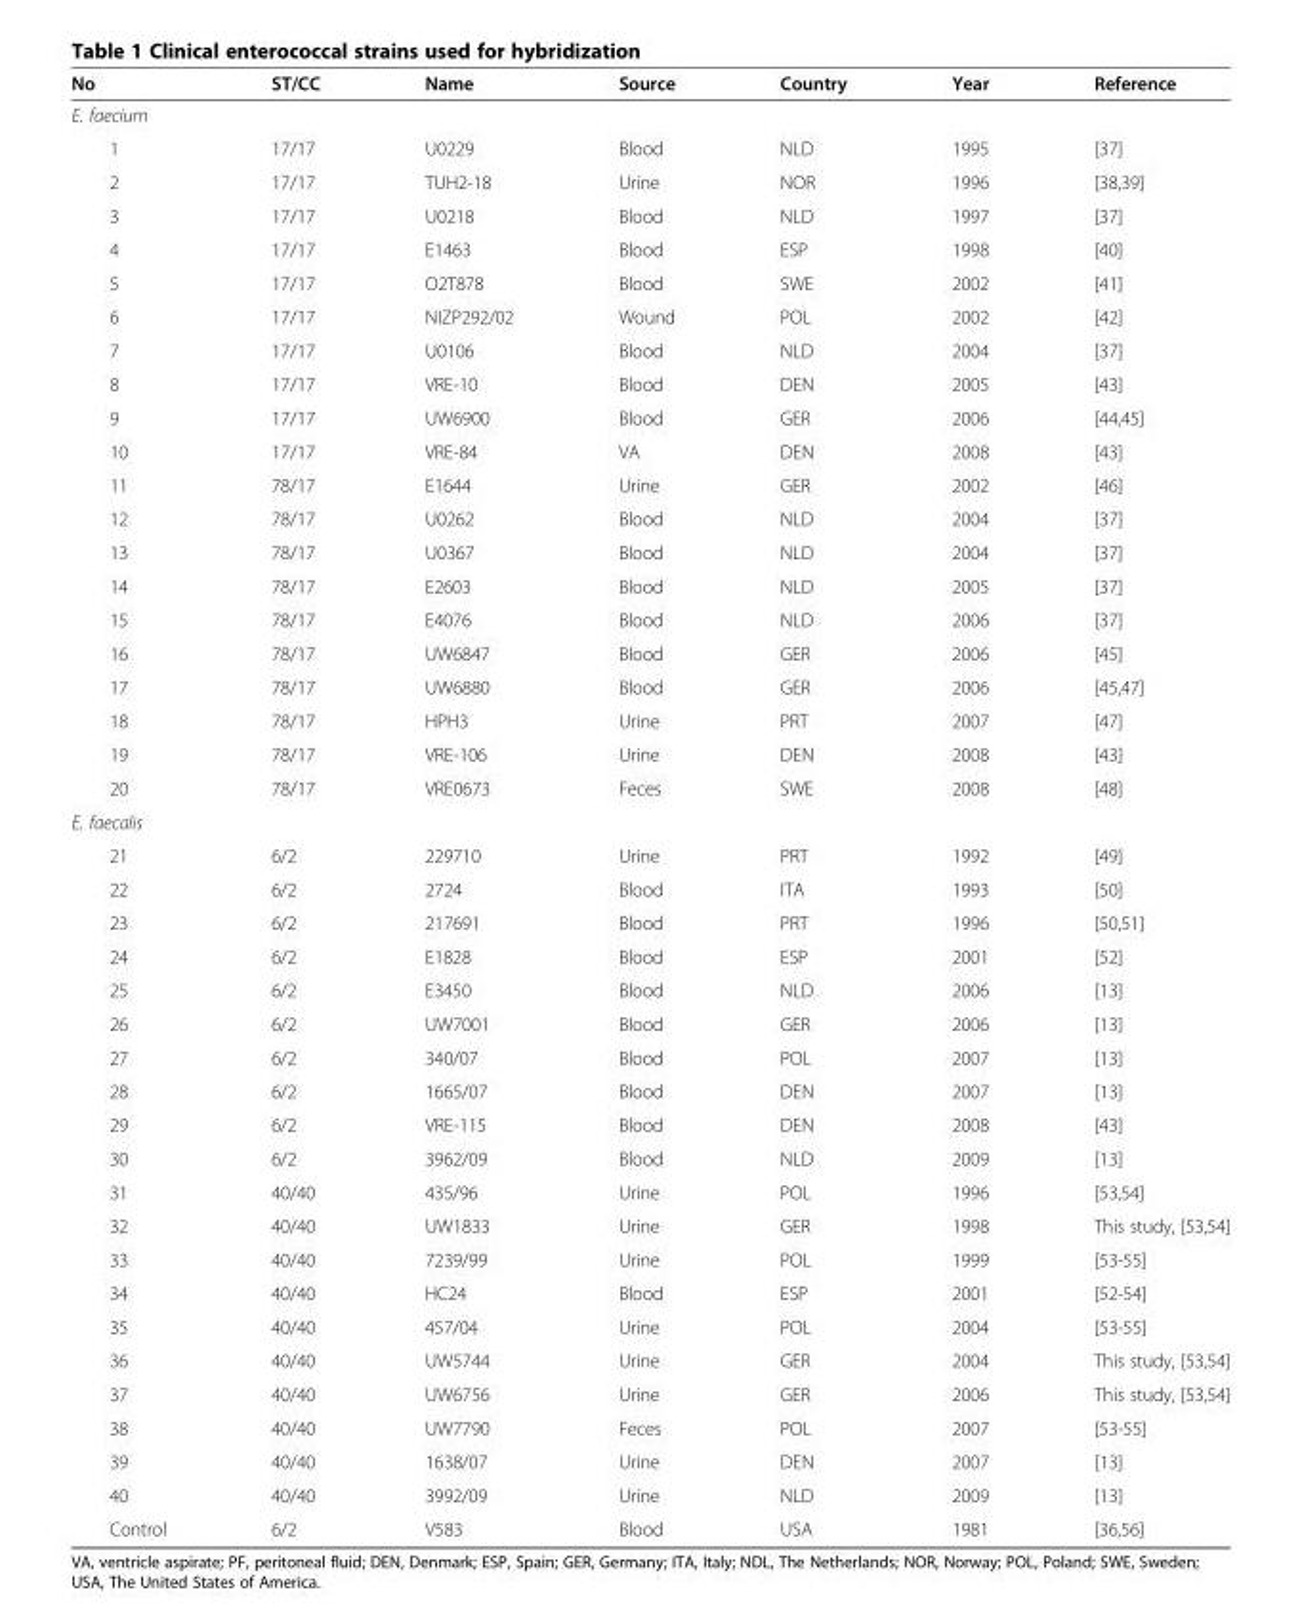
<table><thead><tr><td>No</td><td>ST/CC</td><td>Name</td><td>Source</td><td>Country</td><td>Year</td><td>Reference</td></tr></thead><tbody><tr><td colspan="7">E. faecium</td></tr><tr><td>1</td><td>17/17</td><td>U0229</td><td>Blood</td><td>NLD</td><td>1995</td><td>[37]</td></tr><tr><td>2</td><td>17/17</td><td>TUH2-18</td><td>Urine</td><td>NOR</td><td>1996</td><td>[38,39]</td></tr><tr><td>3</td><td>17/17</td><td>U0218</td><td>Blood</td><td>NLD</td><td>1997</td><td>[37]</td></tr><tr><td>4</td><td>17/17</td><td>E1463</td><td>Blood</td><td>ESP</td><td>1998</td><td>[40]</td></tr><tr><td>5</td><td>17/17</td><td>O2T878</td><td>Blood</td><td>SWE</td><td>2002</td><td>[41]</td></tr><tr><td>6</td><td>17/17</td><td>NIZP292/02</td><td>Wound</td><td>POL</td><td>2002</td><td>[42]</td></tr><tr><td>7</td><td>17/17</td><td>U0106</td><td>Blood</td><td>NLD</td><td>2004</td><td>[37]</td></tr><tr><td>8</td><td>17/17</td><td>VRE-10</td><td>Blood</td><td>DEN</td><td>2005</td><td>[43]</td></tr><tr><td>9</td><td>17/17</td><td>UW6900</td><td>Blood</td><td>GER</td><td>2006</td><td>[44,45]</td></tr><tr><td>10</td><td>17/17</td><td>VRE-84</td><td>VA</td><td>DEN</td><td>2008</td><td>[43]</td></tr><tr><td>11</td><td>78/17</td><td>E1644</td><td>Urine</td><td>GER</td><td>2002</td><td>[46]</td></tr><tr><td>12</td><td>78/17</td><td>U0262</td><td>Blood</td><td>NLD</td><td>2004</td><td>[37]</td></tr><tr><td>13</td><td>78/17</td><td>U0367</td><td>Blood</td><td>NLD</td><td>2004</td><td>[37]</td></tr><tr><td>14</td><td>78/17</td><td>E2603</td><td>Blood</td><td>NLD</td><td>2005</td><td>[37]</td></tr><tr><td>15</td><td>78/17</td><td>E4076</td><td>Blood</td><td>NLD</td><td>2006</td><td>[37]</td></tr><tr><td>16</td><td>78/17</td><td>UW6847</td><td>Blood</td><td>GER</td><td>2006</td><td>[45]</td></tr><tr><td>17</td><td>78/17</td><td>UW6880</td><td>Blood</td><td>GER</td><td>2006</td><td>[45,47]</td></tr><tr><td>18</td><td>78/17</td><td>HPH3</td><td>Urine</td><td>PRT</td><td>2007</td><td>[47]</td></tr><tr><td>19</td><td>78/17</td><td>VRE-106</td><td>Urine</td><td>DEN</td><td>2008</td><td>[43]</td></tr><tr><td>20</td><td>78/17</td><td>VRE0673</td><td>Feces</td><td>SWE</td><td>2008</td><td>[48]</td></tr><tr><td colspan="7">E. faecalis</td></tr><tr><td>21</td><td>6/2</td><td>229710</td><td>Urine</td><td>PRT</td><td>1992</td><td>[49]</td></tr><tr><td>22</td><td>6/2</td><td>2724</td><td>Blood</td><td>ITA</td><td>1993</td><td>[50]</td></tr><tr><td>23</td><td>6/2</td><td>217691</td><td>Blood</td><td>PRT</td><td>1996</td><td>[50,51]</td></tr><tr><td>24</td><td>6/2</td><td>E1828</td><td>Blood</td><td>ESP</td><td>2001</td><td>[52]</td></tr><tr><td>25</td><td>6/2</td><td>E3450</td><td>Blood</td><td>NLD</td><td>2006</td><td>[13]</td></tr><tr><td>26</td><td>6/2</td><td>UW7001</td><td>Blood</td><td>GER</td><td>2006</td><td>[13]</td></tr><tr><td>27</td><td>6/2</td><td>340/07</td><td>Blood</td><td>POL</td><td>2007</td><td>[13]</td></tr><tr><td>28</td><td>6/2</td><td>1665/07</td><td>Blood</td><td>DEN</td><td>2007</td><td>[13]</td></tr><tr><td>29</td><td>6/2</td><td>VRE-115</td><td>Blood</td><td>DEN</td><td>2008</td><td>[43]</td></tr><tr><td>30</td><td>6/2</td><td>3962/09</td><td>Blood</td><td>NLD</td><td>2009</td><td>[13]</td></tr><tr><td>31</td><td>40/40</td><td>435/96</td><td>Urine</td><td>POL</td><td>1996</td><td>[53,54]</td></tr><tr><td>32</td><td>40/40</td><td>UW1833</td><td>Urine</td><td>GER</td><td>1998</td><td>This study, [53,54]</td></tr><tr><td>33</td><td>40/40</td><td>7239/99</td><td>Urine</td><td>POL</td><td>1999</td><td>[53-55]</td></tr><tr><td>34</td><td>40/40</td><td>HC24</td><td>Blood</td><td>ESP</td><td>2001</td><td>[52-54]</td></tr><tr><td>35</td><td>40/40</td><td>457/04</td><td>Urine</td><td>POL</td><td>2004</td><td>[53-55]</td></tr><tr><td>36</td><td>40/40</td><td>UW5744</td><td>Urine</td><td>GER</td><td>2004</td><td>This study, [53,54]</td></tr><tr><td>37</td><td>40/40</td><td>UW6756</td><td>Urine</td><td>GER</td><td>2006</td><td>This study, [53,54]</td></tr><tr><td>38</td><td>40/40</td><td>UW7790</td><td>Feces</td><td>POL</td><td>2007</td><td>[53-55]</td></tr><tr><td>39</td><td>40/40</td><td>1638/07</td><td>Urine</td><td>DEN</td><td>2007</td><td>[13]</td></tr><tr><td>40</td><td>40/40</td><td>3992/09</td><td>Urine</td><td>NLD</td><td>2009</td><td>[13]</td></tr><tr><td>Control</td><td>6/2</td><td>V583</td><td>Blood</td><td>USA</td><td>1981</td><td>[36,56]</td></tr></tbody></table>